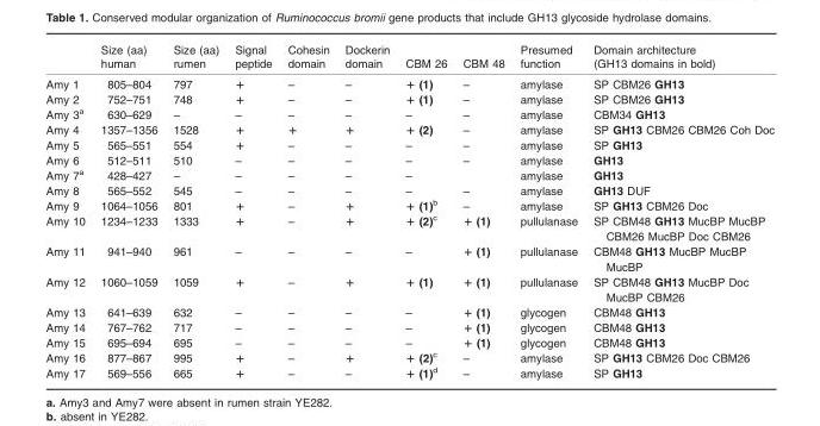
<table><thead><tr><td></td><td>Size (aa) human</td><td>Size (aa) rumen</td><td>Signal peptide</td><td>Cohesin domain</td><td>Dockerin domain</td><td>CBM 26</td><td>CBM 48</td><td>Presumed function</td><td>Domain architecture (GH13 domains in bold)</td></tr></thead><tbody><tr><td>Amy 1</td><td>805–804</td><td>797</td><td>+</td><td>–</td><td>–</td><td>+ (1)</td><td>–</td><td>amylase</td><td>SP CBM26 GH13</td></tr><tr><td>Amy 2</td><td>752–751</td><td>748</td><td>+</td><td>–</td><td>–</td><td>+ (1)</td><td>–</td><td>amylase</td><td>SP CBM26 GH13</td></tr><tr><td>Amy 3<sup>a</sup></td><td>630–629</td><td>–</td><td>–</td><td>–</td><td>–</td><td>–</td><td>–</td><td>amylase</td><td>CBM34 GH13</td></tr><tr><td>Amy 4</td><td>1357–1356</td><td>1528</td><td>+</td><td>+</td><td>+</td><td>+ (2)</td><td>–</td><td>amylase</td><td>SP GH13 CBM26 CBM26 Coh Doc</td></tr><tr><td>Amy 5</td><td>565–551</td><td>554</td><td>+</td><td>–</td><td>–</td><td>–</td><td>–</td><td>amylase</td><td>SP GH13</td></tr><tr><td>Amy 6</td><td>512–511</td><td>510</td><td>–</td><td>–</td><td>–</td><td>–</td><td>–</td><td>amylase</td><td>GH13</td></tr><tr><td>Amy 7<sup>a</sup></td><td>428–427</td><td>–</td><td>–</td><td>–</td><td>–</td><td>–</td><td></td><td>amylase</td><td>GH13</td></tr><tr><td>Amy 8</td><td>565–552</td><td>545</td><td>–</td><td>–</td><td>–</td><td>–</td><td>–</td><td>amylase</td><td>GH13 DUF</td></tr><tr><td>Amy 9</td><td>1064–1056</td><td>801</td><td>+</td><td>–</td><td>+</td><td>+ (1)<sup>b</sup></td><td>–</td><td>amylase</td><td>SP GH13 CBM26 Doc</td></tr><tr><td>Amy 10</td><td>1234–1233</td><td>1333</td><td>+</td><td>–</td><td>+</td><td>+ (2)<sup>c</sup></td><td>+ (1)</td><td>pullulanase</td><td>SP CBM48 GH13 MucBP MucBP CBM26 MucBP Doc CBM26</td></tr><tr><td>Amy 11</td><td>941–940</td><td>961</td><td>–</td><td>–</td><td>–</td><td>–</td><td>+ (1)</td><td>pullulanase</td><td>CBM48 GH13 MucBP MucBP MucBP</td></tr><tr><td>Amy 12</td><td>1060–1059</td><td>1059</td><td>+</td><td>–</td><td>+</td><td>+ (1)</td><td>+ (1)</td><td>pullulanase</td><td>SP CBM48 GH13 MucBP Doc MucBP CBM26</td></tr><tr><td>Amy 13</td><td>641–639</td><td>632</td><td>–</td><td>–</td><td>–</td><td>–</td><td>+ (1)</td><td>glycogen</td><td>CBM48 GH13</td></tr><tr><td>Amy 14</td><td>767–762</td><td>717</td><td>–</td><td>–</td><td>–</td><td>–</td><td>+ (1)</td><td>glycogen</td><td>CBM48 GH13</td></tr><tr><td>Amy 15</td><td>695–694</td><td>695</td><td>–</td><td>–</td><td>–</td><td>–</td><td>+ (1)</td><td>glycogen</td><td>CBM48 GH13</td></tr><tr><td>Amy 16</td><td>877–867</td><td>995</td><td>+</td><td>–</td><td>+</td><td>+ (2)<sup>c</sup></td><td>–</td><td>amylase</td><td>SP GH13 CBM26 Doc CBM26</td></tr><tr><td>Amy 17</td><td>569–556</td><td>665</td><td>+</td><td>–</td><td>–</td><td>+ (1)<sup>d</sup></td><td>–</td><td>amylase</td><td>SP GH13</td></tr></tbody></table>